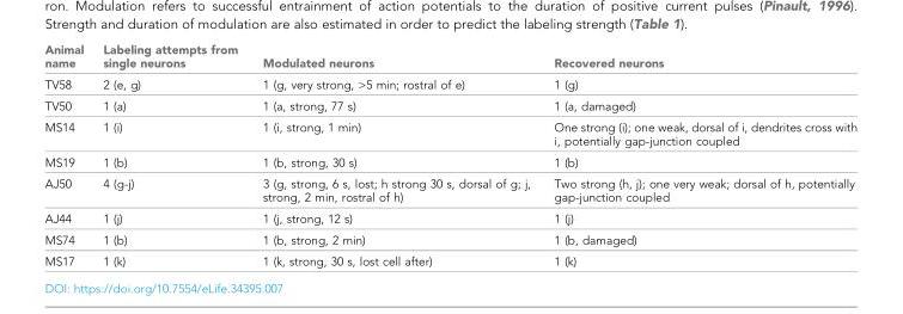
<table><thead><tr><td>Animal name</td><td>Labeling attempts from single neurons</td><td>Modulated neurons</td><td>Recovered neurons</td></tr></thead><tbody><tr><td>TV58</td><td>2 (e, g)</td><td>1 (g, very strong, &gt;5 min; rostral of e)</td><td>1 (g)</td></tr><tr><td>TV50</td><td>1 (a)</td><td>1 (a, strong, 77 s)</td><td>1 (a, damaged)</td></tr><tr><td>MS14</td><td>1 (i)</td><td>1 (i, strong, 1 min)</td><td>One strong (i); one weak, dorsal of i, dendrites cross with i, potentially gap-junction coupled</td></tr><tr><td>MS19</td><td>1 (b)</td><td>1 (b, strong, 30 s)</td><td>1 (b)</td></tr><tr><td>AJ50</td><td>4 (g-j)</td><td>3 (g, strong, 6 s, lost; h strong 30 s, dorsal of g; j, strong, 2 min, rostral of h)</td><td>Two strong (h, j); one very weak; dorsal of h, potentially gap-junction coupled</td></tr><tr><td>AJ44</td><td>1 (j)</td><td>1 (j, strong, 12 s)</td><td>1 (j)</td></tr><tr><td>MS74</td><td>1 (b)</td><td>1 (b, strong, 2 min)</td><td>1 (b, damaged)</td></tr><tr><td>MS17</td><td>1 (k)</td><td>1 (k, strong, 30 s, lost cell after)</td><td>1 (k)</td></tr></tbody></table>